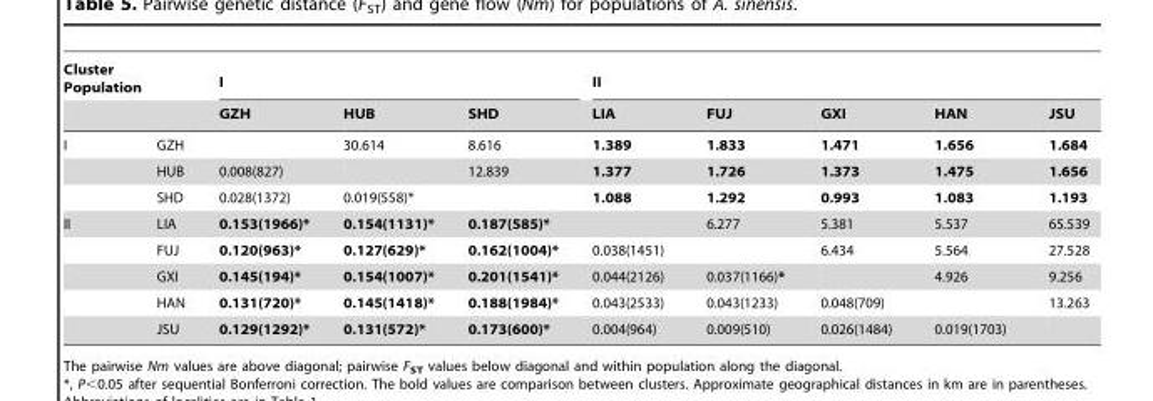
<table><thead><tr><td colspan="2">Cluster Population</td><td colspan="3">I</td><td colspan="5">II</td></tr><tr><td></td><td></td><td>GZH</td><td>HUB</td><td>SHD</td><td>LIA</td><td>FUJ</td><td>GXI</td><td>HAN</td><td>JSU</td></tr></thead><tbody><tr><td rowspan="3">I</td><td>GZH</td><td></td><td>30.614</td><td>8.616</td><td>1.389</td><td>1.833</td><td>1.471</td><td>1.656</td><td>1.684</td></tr><tr><td>HUB</td><td>0.008(827)</td><td></td><td>12.839</td><td>1.377</td><td>1.726</td><td>1.373</td><td>1.475</td><td>1.656</td></tr><tr><td>SHD</td><td>0.028(1372)</td><td>0.019(558)*</td><td></td><td>1.088</td><td>1.292</td><td>0.993</td><td>1.083</td><td>1.193</td></tr><tr><td rowspan="5">II</td><td>LIA</td><td>0.153(1966)*</td><td>0.154(1131)*</td><td>0.187(585)*</td><td></td><td>6.277</td><td>5.381</td><td>5.537</td><td>65.539</td></tr><tr><td>FUJ</td><td>0.120(963)*</td><td>0.127(629)*</td><td>0.162(1004)*</td><td>0.038(1451)</td><td></td><td>6.434</td><td>5.564</td><td>27.528</td></tr><tr><td>GXI</td><td>0.145(194)*</td><td>0.154(1007)*</td><td>0.201(1541)*</td><td>0.044(2126)</td><td>0.037(1166)*</td><td></td><td>4.926</td><td>9.256</td></tr><tr><td>HAN</td><td>0.131(720)*</td><td>0.145(1418)*</td><td>0.188(1984)*</td><td>0.043(2533)</td><td>0.043(1233)</td><td>0.048(709)</td><td></td><td>13.263</td></tr><tr><td>JSU</td><td>0.129(1292)*</td><td>0.131(572)*</td><td>0.173(600)*</td><td>0.004(964)</td><td>0.009(510)</td><td>0.026(1484)</td><td>0.019(1703)</td><td></td></tr></tbody></table>